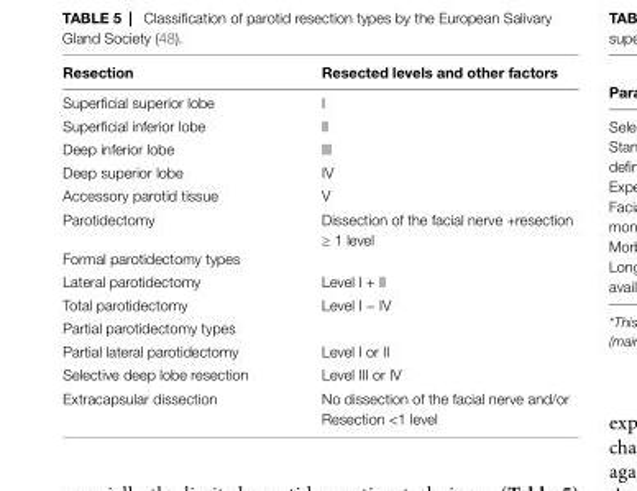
<table><thead><tr><td>Resection</td><td>Resected levels and other factors</td></tr></thead><tbody><tr><td>Superficial superior lobe</td><td>I</td></tr><tr><td>Superficial inferior lobe</td><td>II</td></tr><tr><td>Deep inferior lobe</td><td>III</td></tr><tr><td>Deep superior lobe</td><td>IV</td></tr><tr><td>Accessory parotid tissue</td><td>V</td></tr><tr><td>Parotidectomy</td><td>Dissection of the facial nerve +resection ≥ 1 level</td></tr><tr><td colspan="2">Formal parotidectomy types</td></tr><tr><td>Lateral parotidectomy</td><td>Level I + II</td></tr><tr><td>Total parotidectomy</td><td>Level I − IV</td></tr><tr><td colspan="2">Partial parotidectomy types</td></tr><tr><td>Partial lateral parotidectomy</td><td>Level I or II</td></tr><tr><td>Selective deep lobe resection</td><td>Level III or IV</td></tr><tr><td>Extracapsular dissection</td><td>No dissection of the facial nerve and/or Resection &lt;1 level</td></tr></tbody></table>